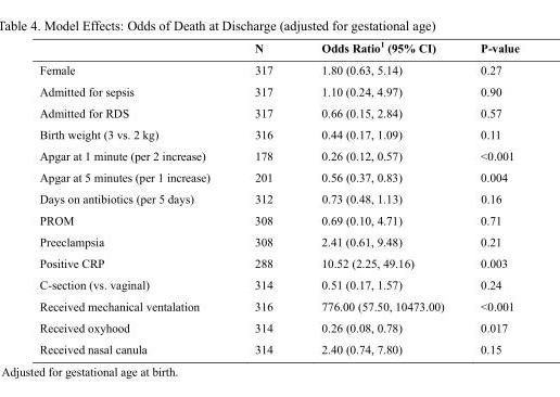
<table><thead><tr><td></td><td>N</td><td>Odds Ratio<sup>1</sup> (95% CI)</td><td>P-value</td></tr></thead><tbody><tr><td>Female</td><td>317</td><td>1.80 (0.63, 5.14)</td><td>0.27</td></tr><tr><td>Admitted for sepsis</td><td>317</td><td>1.10 (0.24, 4.97)</td><td>0.90</td></tr><tr><td>Admitted for RDS</td><td>317</td><td>0.66 (0.15, 2.84)</td><td>0.57</td></tr><tr><td>Birth weight (3 vs. 2 kg)</td><td>316</td><td>0.44 (0.17, 1.09)</td><td>0.11</td></tr><tr><td>Apgar at 1 minute (per 2 increase)</td><td>178</td><td>0.26 (0.12, 0.57)</td><td>&lt;0.001</td></tr><tr><td>Apgar at 5 minutes (per 1 increase)</td><td>201</td><td>0.56 (0.37, 0.83)</td><td>0.004</td></tr><tr><td>Days on antibiotics (per 5 days)</td><td>312</td><td>0.73 (0.48, 1.13)</td><td>0.16</td></tr><tr><td>PROM</td><td>308</td><td>0.69 (0.10, 4.71)</td><td>0.71</td></tr><tr><td>Preeclampsia</td><td>308</td><td>2.41 (0.61, 9.48)</td><td>0.21</td></tr><tr><td>Positive CRP</td><td>288</td><td>10.52 (2.25, 49.16)</td><td>0.003</td></tr><tr><td>C-section (vs. vaginal)</td><td>314</td><td>0.51 (0.17, 1.57)</td><td>0.24</td></tr><tr><td>Received mechanical ventalation</td><td>316</td><td>776.00 (57.50, 10473.00)</td><td>&lt;0.001</td></tr><tr><td>Received oxyhood</td><td>314</td><td>0.26 (0.08, 0.78)</td><td>0.017</td></tr><tr><td>Received nasal canula</td><td>314</td><td>2.40 (0.74, 7.80)</td><td>0.15</td></tr></tbody></table>